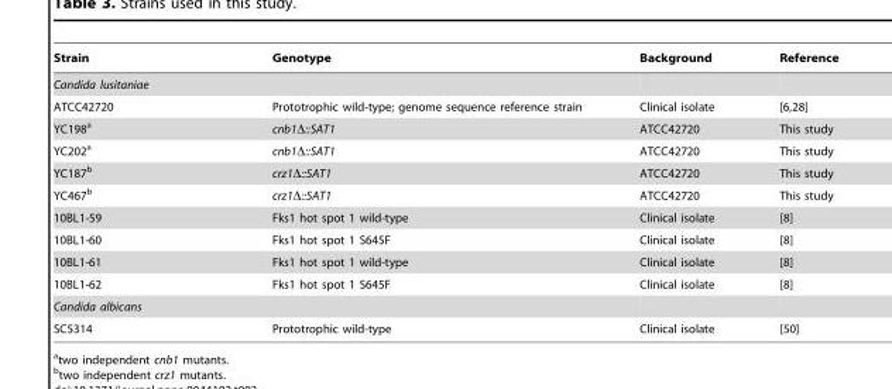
<table><thead><tr><td>Strain</td><td>Genotype</td><td>Background</td><td>Reference</td></tr></thead><tbody><tr><td colspan="4">Candida lusitaniae</td></tr><tr><td>ATCC42720</td><td>Prototrophic wild-type; genome sequence reference strain</td><td>Clinical isolate</td><td>[6,28]</td></tr><tr><td>YC198<sup>a</sup></td><td>cnb1Δ::SAT1</td><td>ATCC42720</td><td>This study</td></tr><tr><td>YC202<sup>a</sup></td><td>cnb1Δ::SAT1</td><td>ATCC42720</td><td>This study</td></tr><tr><td>YC187<sup>b</sup></td><td>crz1Δ::SAT1</td><td>ATCC42720</td><td>This study</td></tr><tr><td>YC467<sup>b</sup></td><td>crz1Δ::SAT1</td><td>ATCC42720</td><td>This study</td></tr><tr><td>10BL1-59</td><td>Fks1 hot spot 1 wild-type</td><td>Clinical isolate</td><td>[8]</td></tr><tr><td>10BL1-60</td><td>Fks1 hot spot 1 S645F</td><td>Clinical isolate</td><td>[8]</td></tr><tr><td>10BL1-61</td><td>Fks1 hot spot 1 wild-type</td><td>Clinical isolate</td><td>[8]</td></tr><tr><td>10BL1-62</td><td>Fks1 hot spot 1 S645F</td><td>Clinical isolate</td><td>[8]</td></tr><tr><td colspan="4">Candida albicans</td></tr><tr><td>SC5314</td><td>Prototrophic wild-type</td><td>Clinical isolate</td><td>[50]</td></tr></tbody></table>